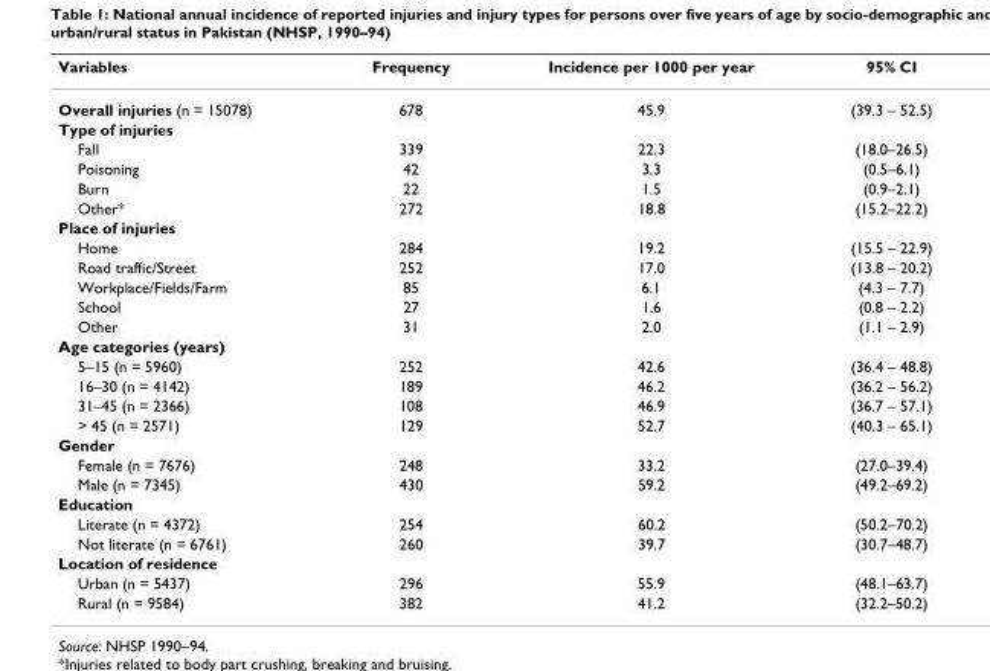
<table><thead><tr><td>Variables</td><td>Frequency</td><td>Incidence per 1000 per year</td><td>95% CI</td></tr></thead><tbody><tr><td>Overall injuries (n = 15078)</td><td>678</td><td>45.9</td><td>(39.3 – 52.5)</td></tr><tr><td colspan="4">Type of injuries</td></tr><tr><td>Fall</td><td>339</td><td>22.3</td><td>(18.0–26.5)</td></tr><tr><td>Poisoning</td><td>42</td><td>3.3</td><td>(0.5–6.1)</td></tr><tr><td>Burn</td><td>22</td><td>1.5</td><td>(0.9–2.1)</td></tr><tr><td>Other*</td><td>272</td><td>18.8</td><td>(15.2–22.2)</td></tr><tr><td colspan="4">Place of injuries</td></tr><tr><td>Home</td><td>284</td><td>19.2</td><td>(15.5 – 22.9)</td></tr><tr><td>Road traffic/Street</td><td>252</td><td>17.0</td><td>(13.8 – 20.2)</td></tr><tr><td>Workplace/Fields/Farm</td><td>85</td><td>6.1</td><td>(4.3 – 7.7)</td></tr><tr><td>School</td><td>27</td><td>1.6</td><td>(0.8 – 2.2)</td></tr><tr><td>Other</td><td>31</td><td>2.0</td><td>(1.1 – 2.9)</td></tr><tr><td colspan="4">Age categories (years)</td></tr><tr><td>5–15 (n = 5960)</td><td>252</td><td>42.6</td><td>(36.4 – 48.8)</td></tr><tr><td>16–30 (n = 4142)</td><td>189</td><td>46.2</td><td>(36.2 – 56.2)</td></tr><tr><td>31–45 (n = 2366)</td><td>108</td><td>46.9</td><td>(36.7 – 57.1)</td></tr><tr><td>&gt; 45 (n = 2571)</td><td>129</td><td>52.7</td><td>(40.3 – 65.1)</td></tr><tr><td colspan="4">Gender</td></tr><tr><td>Female (n = 7676)</td><td>248</td><td>33.2</td><td>(27.0–39.4)</td></tr><tr><td>Male (n = 7345)</td><td>430</td><td>59.2</td><td>(49.2–69.2)</td></tr><tr><td colspan="4">Education</td></tr><tr><td>Literate (n = 4372)</td><td>254</td><td>60.2</td><td>(50.2–70.2)</td></tr><tr><td>Not literate (n = 6761)</td><td>260</td><td>39.7</td><td>(30.7–48.7)</td></tr><tr><td colspan="4">Location of residence</td></tr><tr><td>Urban (n = 5437)</td><td>296</td><td>55.9</td><td>(48.1–63.7)</td></tr><tr><td>Rural (n = 9584)</td><td>382</td><td>41.2</td><td>(32.2–50.2)</td></tr></tbody></table>